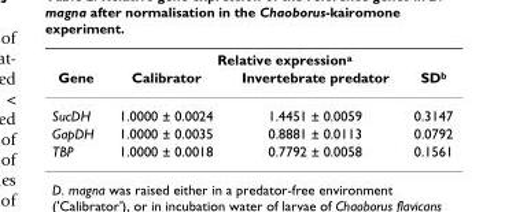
<table><thead><tr><td rowspan="2">Gene</td><td colspan="3">Relative expression<sup>a</sup></td></tr><tr><td>Calibrator</td><td>Invertebrate predator</td><td>SD<sup>b</sup></td></tr></thead><tbody><tr><td>SucDH</td><td>1.0000 ± 0.0024</td><td>1.4451 ± 0.0059</td><td>0.3147</td></tr><tr><td>GapDH</td><td>1.0000 ± 0.0035</td><td>0.8881 ± 0.0113</td><td>0.0792</td></tr><tr><td>TBP</td><td>1.0000 ± 0.0018</td><td>0.7792 ± 0.0058</td><td>0.1561</td></tr></tbody></table>